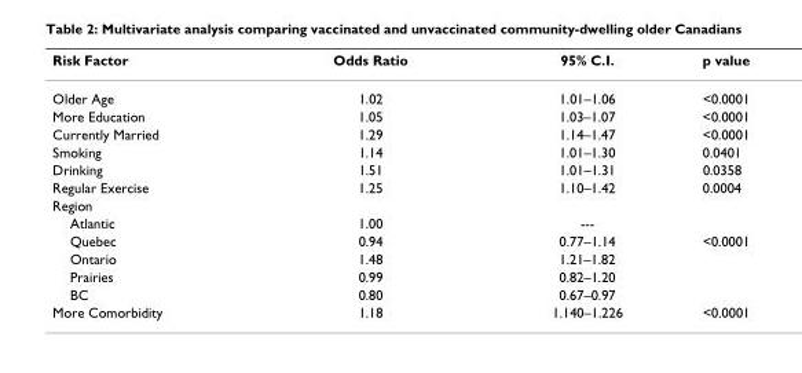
<table><thead><tr><td>Risk Factor</td><td>Odds Ratio</td><td>95% C.I.</td><td>p value</td></tr></thead><tbody><tr><td>Older Age</td><td>1.02</td><td>1.01–1.06</td><td>&lt;0.0001</td></tr><tr><td>More Education</td><td>1.05</td><td>1.03–1.07</td><td>&lt;0.0001</td></tr><tr><td>Currently Married</td><td>1.29</td><td>1.14–1.47</td><td>&lt;0.0001</td></tr><tr><td>Smoking</td><td>1.14</td><td>1.01–1.30</td><td>0.0401</td></tr><tr><td>Drinking</td><td>1.51</td><td>1.01–1.31</td><td>0.0358</td></tr><tr><td>Regular Exercise</td><td>1.25</td><td>1.10–1.42</td><td>0.0004</td></tr><tr><td colspan="4">Region</td></tr><tr><td>Atlantic</td><td>1.00</td><td>---</td><td></td></tr><tr><td>Quebec</td><td>0.94</td><td>0.77–1.14</td><td>&lt;0.0001</td></tr><tr><td>Ontario</td><td>1.48</td><td>1.21–1.82</td><td></td></tr><tr><td>Prairies</td><td>0.99</td><td>0.82–1.20</td><td></td></tr><tr><td>BC</td><td>0.80</td><td>0.67–0.97</td><td></td></tr><tr><td>More Comorbidity</td><td>1.18</td><td>1.140–1.226</td><td>&lt;0.0001</td></tr></tbody></table>